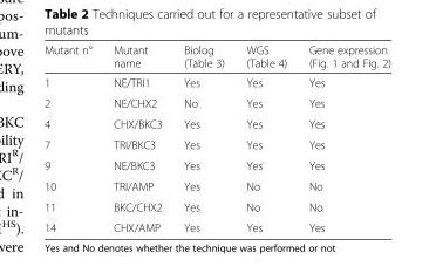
<table><thead><tr><td>Mutant n°</td><td>Mutant name</td><td>Biolog (Table 3)</td><td>WGS (Table 4)</td><td>Gene expression (Fig. 1 and Fig. 2)</td></tr></thead><tbody><tr><td>1</td><td>NE/TRI1</td><td>Yes</td><td>Yes</td><td>Yes</td></tr><tr><td>2</td><td>NE/CHX2</td><td>No</td><td>Yes</td><td>Yes</td></tr><tr><td>4</td><td>CHX/BKC3</td><td>Yes</td><td>Yes</td><td>Yes</td></tr><tr><td>7</td><td>TRI/BKC3</td><td>Yes</td><td>Yes</td><td>Yes</td></tr><tr><td>9</td><td>NE/BKC3</td><td>Yes</td><td>Yes</td><td>Yes</td></tr><tr><td>10</td><td>TRI/AMP</td><td>Yes</td><td>No</td><td>No</td></tr><tr><td>11</td><td>BKC/CHX2</td><td>Yes</td><td>No</td><td>No</td></tr><tr><td>14</td><td>CHX/AMP</td><td>Yes</td><td>Yes</td><td>Yes</td></tr></tbody></table>